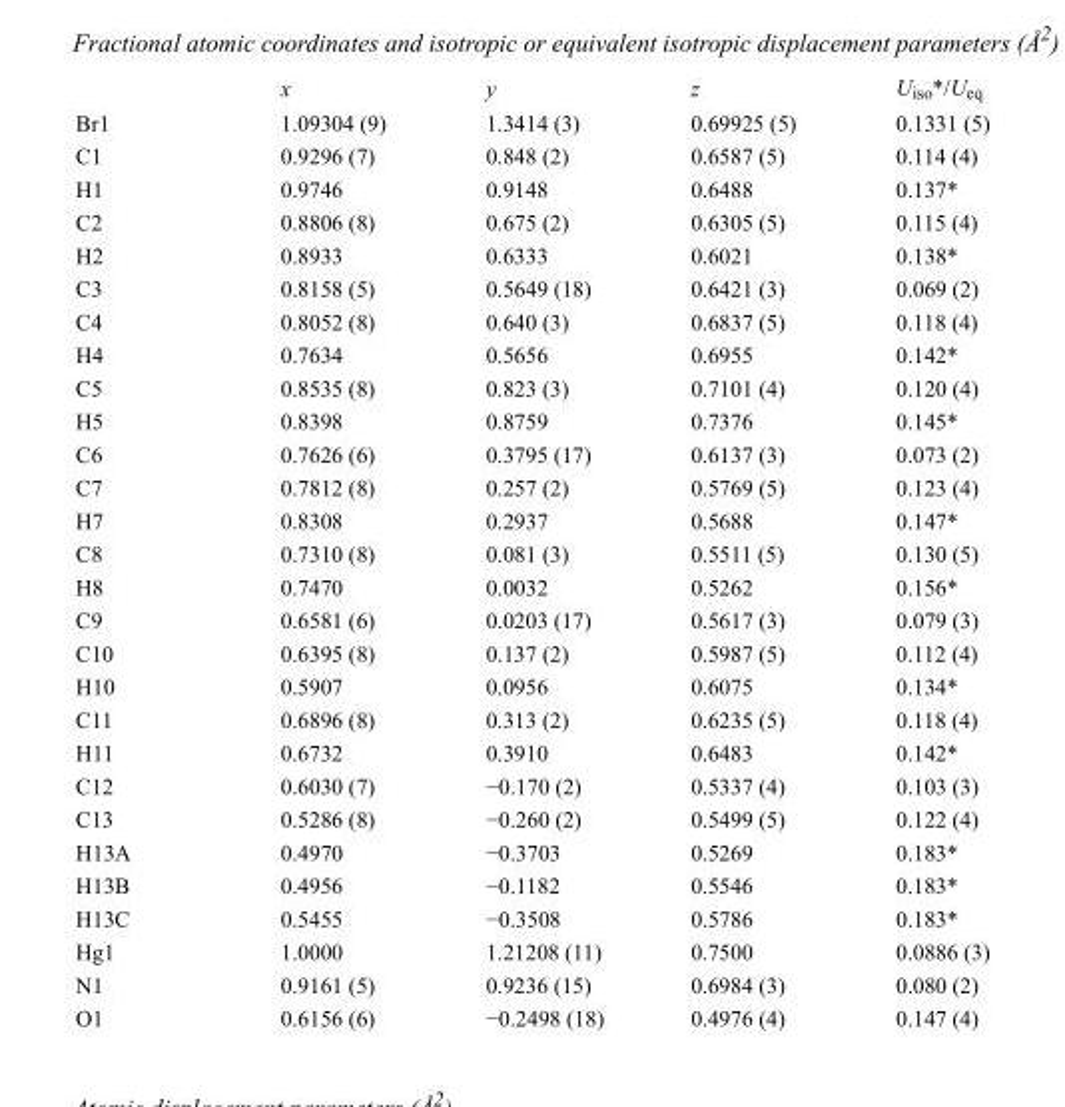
<table><thead><tr><td></td><td>x</td><td>y</td><td>z</td><td>U<sub>iso</sub>*/U<sub>eq</sub></td></tr></thead><tbody><tr><td>Br1</td><td>1.09304 (9)</td><td>1.3414 (3)</td><td>0.69925 (5)</td><td>0.1331 (5)</td></tr><tr><td>C1</td><td>0.9296 (7)</td><td>0.848 (2)</td><td>0.6587 (5)</td><td>0.114 (4)</td></tr><tr><td>H1</td><td>0.9746</td><td>0.9148</td><td>0.6488</td><td>0.137*</td></tr><tr><td>C2</td><td>0.8806 (8)</td><td>0.675 (2)</td><td>0.6305 (5)</td><td>0.115 (4)</td></tr><tr><td>H2</td><td>0.8933</td><td>0.6333</td><td>0.6021</td><td>0.138*</td></tr><tr><td>C3</td><td>0.8158 (5)</td><td>0.5649 (18)</td><td>0.6421 (3)</td><td>0.069 (2)</td></tr><tr><td>C4</td><td>0.8052 (8)</td><td>0.640 (3)</td><td>0.6837 (5)</td><td>0.118 (4)</td></tr><tr><td>H4</td><td>0.7634</td><td>0.5656</td><td>0.6955</td><td>0.142*</td></tr><tr><td>C5</td><td>0.8535 (8)</td><td>0.823 (3)</td><td>0.7101 (4)</td><td>0.120 (4)</td></tr><tr><td>H5</td><td>0.8398</td><td>0.8759</td><td>0.7376</td><td>0.145*</td></tr><tr><td>C6</td><td>0.7626 (6)</td><td>0.3795 (17)</td><td>0.6137 (3)</td><td>0.073 (2)</td></tr><tr><td>C7</td><td>0.7812 (8)</td><td>0.257 (2)</td><td>0.5769 (5)</td><td>0.123 (4)</td></tr><tr><td>H7</td><td>0.8308</td><td>0.2937</td><td>0.5688</td><td>0.147*</td></tr><tr><td>C8</td><td>0.7310 (8)</td><td>0.081 (3)</td><td>0.5511 (5)</td><td>0.130 (5)</td></tr><tr><td>H8</td><td>0.7470</td><td>0.0032</td><td>0.5262</td><td>0.156*</td></tr><tr><td>C9</td><td>0.6581 (6)</td><td>0.0203 (17)</td><td>0.5617 (3)</td><td>0.079 (3)</td></tr><tr><td>C10</td><td>0.6395 (8)</td><td>0.137 (2)</td><td>0.5987 (5)</td><td>0.112 (4)</td></tr><tr><td>H10</td><td>0.5907</td><td>0.0956</td><td>0.6075</td><td>0.134*</td></tr><tr><td>C11</td><td>0.6896 (8)</td><td>0.313 (2)</td><td>0.6235 (5)</td><td>0.118 (4)</td></tr><tr><td>H11</td><td>0.6732</td><td>0.3910</td><td>0.6483</td><td>0.142*</td></tr><tr><td>C12</td><td>0.6030 (7)</td><td>−0.170 (2)</td><td>0.5337 (4)</td><td>0.103 (3)</td></tr><tr><td>C13</td><td>0.5286 (8)</td><td>−0.260 (2)</td><td>0.5499 (5)</td><td>0.122 (4)</td></tr><tr><td>H13A</td><td>0.4970</td><td>−0.3703</td><td>0.5269</td><td>0.183*</td></tr><tr><td>H13B</td><td>0.4956</td><td>−0.1182</td><td>0.5546</td><td>0.183*</td></tr><tr><td>H13C</td><td>0.5455</td><td>−0.3508</td><td>0.5786</td><td>0.183*</td></tr><tr><td>Hg1</td><td>1.0000</td><td>1.21208 (11)</td><td>0.7500</td><td>0.0886 (3)</td></tr><tr><td>N1</td><td>0.9161 (5)</td><td>0.9236 (15)</td><td>0.6984 (3)</td><td>0.080 (2)</td></tr><tr><td>O1</td><td>0.6156 (6)</td><td>−0.2498 (18)</td><td>0.4976 (4)</td><td>0.147 (4)</td></tr></tbody></table>